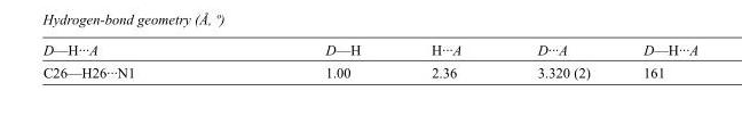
<table><tbody><tr><td>D—H···A</td><td>D—H</td><td>H···A</td><td>D···A</td><td>D—H···A</td></tr><tr><td>C26—H26···N1</td><td>1.00</td><td>2.36</td><td>3.320 (2)</td><td>161</td></tr></tbody></table>